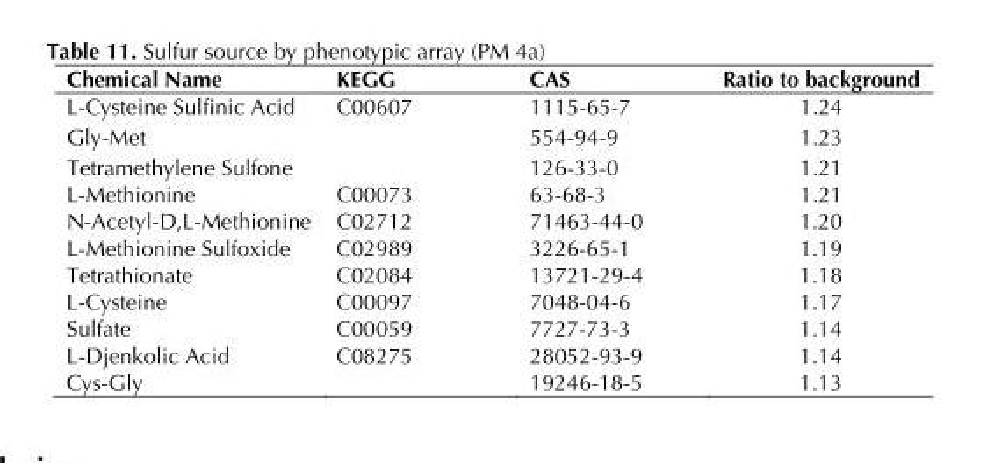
<table><thead><tr><td>Chemical Name</td><td>KEGG</td><td>CAS</td><td>Ratio to background</td></tr></thead><tbody><tr><td>L-Cysteine Sulfinic Acid</td><td>C00607</td><td>1115-65-7</td><td>1.24</td></tr><tr><td>Gly-Met</td><td></td><td>554-94-9</td><td>1.23</td></tr><tr><td>Tetramethylene Sulfone</td><td></td><td>126-33-0</td><td>1.21</td></tr><tr><td>L-Methionine</td><td>C00073</td><td>63-68-3</td><td>1.21</td></tr><tr><td>N-Acetyl-D,L-Methionine</td><td>C02712</td><td>71463-44-0</td><td>1.20</td></tr><tr><td>L-Methionine Sulfoxide</td><td>C02989</td><td>3226-65-1</td><td>1.19</td></tr><tr><td>Tetrathionate</td><td>C02084</td><td>13721-29-4</td><td>1.18</td></tr><tr><td>L-Cysteine</td><td>C00097</td><td>7048-04-6</td><td>1.17</td></tr><tr><td>Sulfate</td><td>C00059</td><td>7727-73-3</td><td>1.14</td></tr><tr><td>L-Djenkolic Acid</td><td>C08275</td><td>28052-93-9</td><td>1.14</td></tr><tr><td>Cys-Gly</td><td></td><td>19246-18-5</td><td>1.13</td></tr></tbody></table>